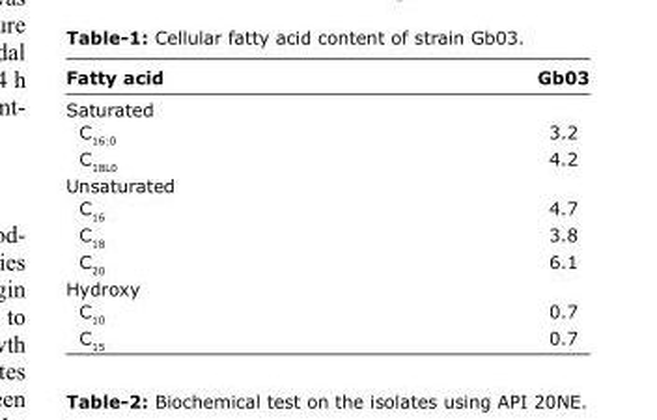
<table><thead><tr><td>Fatty acid</td><td>Gb03</td></tr></thead><tbody><tr><td colspan="2">Saturated</td></tr><tr><td>C<sub>16:0</sub></td><td>3.2</td></tr><tr><td>C<sub>18L0</sub></td><td>4.2</td></tr><tr><td colspan="2">Unsaturated</td></tr><tr><td>C<sub>16</sub></td><td>4.7</td></tr><tr><td>C<sub>18</sub></td><td>3.8</td></tr><tr><td>C<sub>20</sub></td><td>6.1</td></tr><tr><td colspan="2">Hydroxy</td></tr><tr><td>C<sub>10</sub></td><td>0.7</td></tr><tr><td>C<sub>15</sub></td><td>0.7</td></tr></tbody></table>